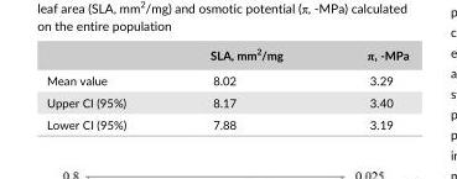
<table><thead><tr><td></td><td>SLA, mm<sup>2</sup>/mg</td><td>π, - MPa</td></tr></thead><tbody><tr><td>Mean value</td><td>8.02</td><td>3.29</td></tr><tr><td>Upper CI (95%)</td><td>8.17</td><td>3.40</td></tr><tr><td>Lower CI (95%)</td><td>7.88</td><td>3.19</td></tr></tbody></table>